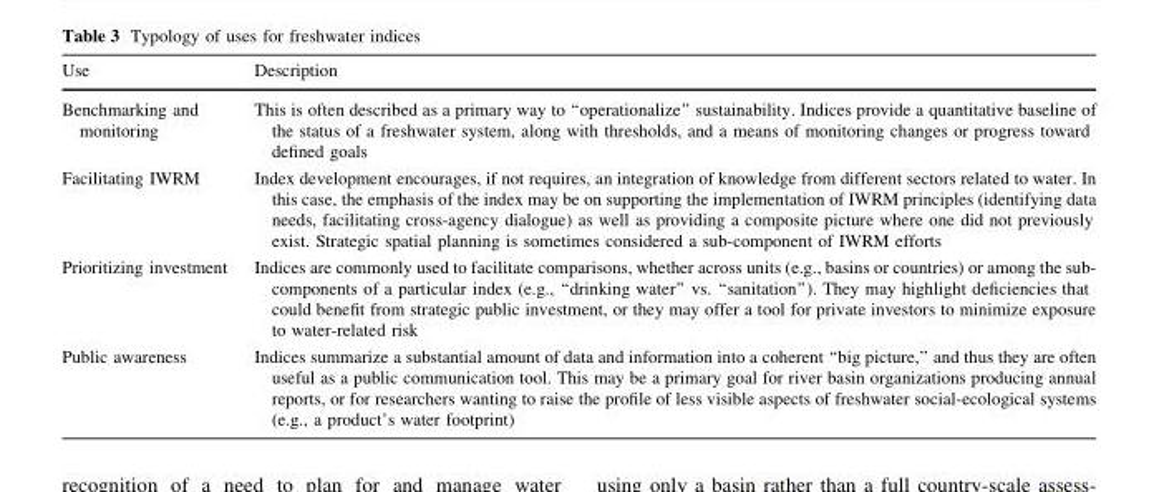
<table><thead><tr><td>Use</td><td>Description</td></tr></thead><tbody><tr><td>Benchmarking and monitoring</td><td>This is often described as a primary way to ‘‘operationalize’’ sustainability. Indices provide a quantitative baseline of the status of a freshwater system, along with thresholds, and a means of monitoring changes or progress toward defined goals</td></tr><tr><td>Facilitating IWRM</td><td>Index development encourages, if not requires, an integration of knowledge from different sectors related to water. In this case, the emphasis of the index may be on supporting the implementation of IWRM principles (identifying data needs, facilitating cross-agency dialogue) as well as providing a composite picture where one did not previously exist. Strategic spatial planning is sometimes considered a sub-component of IWRM efforts</td></tr><tr><td>Prioritizing investment</td><td>Indices are commonly used to facilitate comparisons, whether across units (e.g., basins or countries) or among the sub- components of a particular index (e.g., ‘‘drinking water’’ vs. ‘‘sanitation’’). They may highlight deficiencies that could benefit from strategic public investment, or they may offer a tool for private investors to minimize exposure to water-related risk</td></tr><tr><td>Public awareness</td><td>Indices summarize a substantial amount of data and information into a coherent ‘‘big picture,’’ and thus they are often useful as a public communication tool. This may be a primary goal for river basin organizations producing annual reports, or for researchers wanting to raise the profile of less visible aspects of freshwater social-ecological systems (e.g., a product’s water footprint)</td></tr></tbody></table>